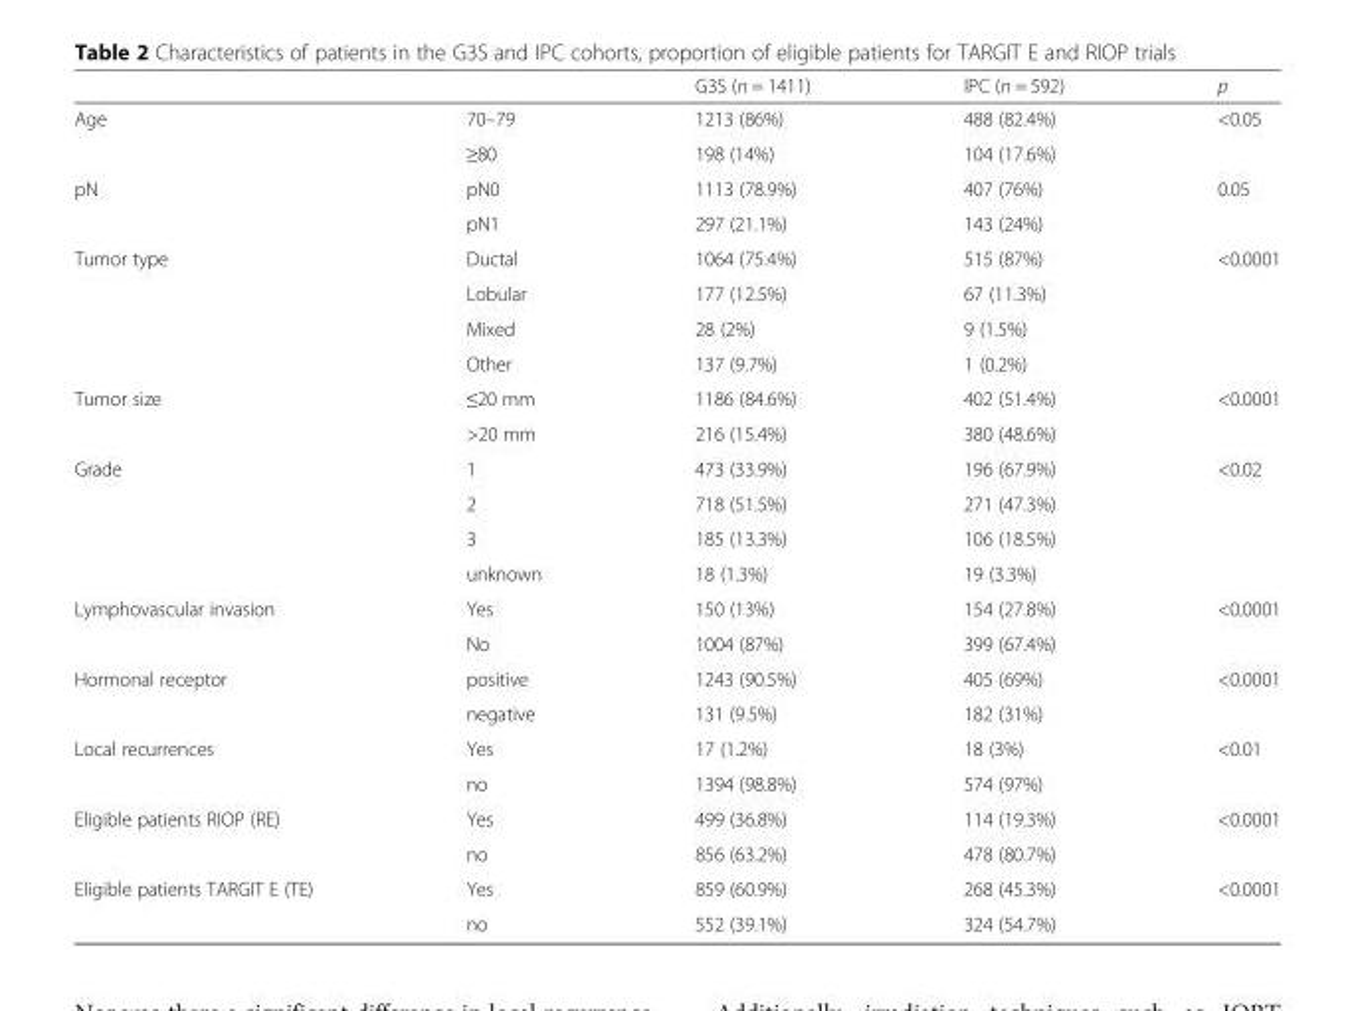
<table><thead><tr><td></td><td></td><td>G3S (n = 1411)</td><td>IPC (n = 592)</td><td>p</td></tr></thead><tbody><tr><td rowspan="2">Age</td><td>70–79</td><td>1213 (86%)</td><td>488 (82.4%)</td><td rowspan="2">&lt;0.05</td></tr><tr><td>≥80</td><td>198 (14%)</td><td>104 (17.6%)</td></tr><tr><td rowspan="2">pN</td><td>pN0</td><td>1113 (78.9%)</td><td>407 (76%)</td><td rowspan="2">0.05</td></tr><tr><td>pN1</td><td>297 (21.1%)</td><td>143 (24%)</td></tr><tr><td rowspan="4">Tumor type</td><td>Ductal</td><td>1064 (75.4%)</td><td>515 (87%)</td><td rowspan="4">&lt;0.0001</td></tr><tr><td>Lobular</td><td>177 (12.5%)</td><td>67 (11.3%)</td></tr><tr><td>Mixed</td><td>28 (2%)</td><td>9 (1.5%)</td></tr><tr><td>Other</td><td>137 (9.7%)</td><td>1 (0.2%)</td></tr><tr><td rowspan="2">Tumor size</td><td>≤20 mm</td><td>1186 (84.6%)</td><td>402 (51.4%)</td><td rowspan="2">&lt;0.0001</td></tr><tr><td>&gt;20 mm</td><td>216 (15.4%)</td><td>380 (48.6%)</td></tr><tr><td rowspan="4">Grade</td><td>1</td><td>473 (33.9%)</td><td>196 (67.9%)</td><td rowspan="4">&lt;0.02</td></tr><tr><td>2</td><td>718 (51.5%)</td><td>271 (47.3%)</td></tr><tr><td>3</td><td>185 (13.3%)</td><td>106 (18.5%)</td></tr><tr><td>unknown</td><td>18 (1.3%)</td><td>19 (3.3%)</td></tr><tr><td rowspan="2">Lymphovascular invasion</td><td>Yes</td><td>150 (13%)</td><td>154 (27.8%)</td><td rowspan="2">&lt;0.0001</td></tr><tr><td>No</td><td>1004 (87%)</td><td>399 (67.4%)</td></tr><tr><td rowspan="2">Hormonal receptor</td><td>positive</td><td>1243 (90.5%)</td><td>405 (69%)</td><td rowspan="2">&lt;0.0001</td></tr><tr><td>negative</td><td>131 (9.5%)</td><td>182 (31%)</td></tr><tr><td rowspan="2">Local recurrences</td><td>Yes</td><td>17 (1.2%)</td><td>18 (3%)</td><td rowspan="2">&lt;0.01</td></tr><tr><td>no</td><td>1394 (98.8%)</td><td>574 (97%)</td></tr><tr><td rowspan="2">Eligible patients RIOP (RE)</td><td>Yes</td><td>499 (36.8%)</td><td>114 (19.3%)</td><td rowspan="2">&lt;0.0001</td></tr><tr><td>no</td><td>856 (63.2%)</td><td>478 (80.7%)</td></tr><tr><td rowspan="2">Eligible patients TARGIT E (TE)</td><td>Yes</td><td>859 (60.9%)</td><td>268 (45.3%)</td><td rowspan="2">&lt;0.0001</td></tr><tr><td>no</td><td>552 (39.1%)</td><td>324 (54.7%)</td></tr></tbody></table>